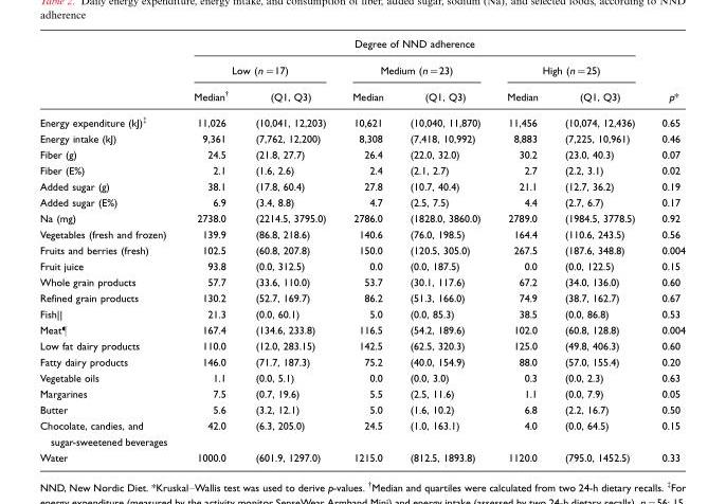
<table><thead><tr><td rowspan="3"></td><td colspan="6">Degree of NND adherence</td><td rowspan="3">p*</td></tr><tr><td colspan="2">Low (n=17)</td><td colspan="2">Medium (n=23)</td><td colspan="2">High (n=25)</td></tr><tr><td>Median†</td><td>(Q1, Q3)</td><td>Median</td><td>(Q1, Q3)</td><td>Median</td><td>(Q1, Q3)</td></tr></thead><tbody><tr><td>Energy expenditure (kJ)‡</td><td>11,026</td><td>(10,041, 12,203)</td><td>10,621</td><td>(10,040, 11,870)</td><td>11,456</td><td>(10,074, 12,436)</td><td>0.65</td></tr><tr><td>Energy intake (kJ)</td><td>9,361</td><td>(7,762, 12,200)</td><td>8,308</td><td>(7,418, 10,992)</td><td>8,883</td><td>(7,225, 10,961)</td><td>0.46</td></tr><tr><td>Fiber (g)</td><td>24.5</td><td>(21.8, 27.7)</td><td>26.4</td><td>(22.0, 32.0)</td><td>30.2</td><td>(23.0, 40.3)</td><td>0.07</td></tr><tr><td>Fiber (E%)</td><td>2.1</td><td>(1.6, 2.6)</td><td>2.4</td><td>(2.1, 2.7)</td><td>2.7</td><td>(2.2, 3.1)</td><td>0.02</td></tr><tr><td>Added sugar (g)</td><td>38.1</td><td>(17.8, 60.4)</td><td>27.8</td><td>(10.7, 40.4)</td><td>21.1</td><td>(12.7, 36.2)</td><td>0.19</td></tr><tr><td>Added sugar (E%)</td><td>6.9</td><td>(3.4, 8.8)</td><td>4.7</td><td>(2.5, 7.5)</td><td>4.4</td><td>(2.7, 6.7)</td><td>0.17</td></tr><tr><td>Na (mg)</td><td>2738.0</td><td>(2214.5, 3795.0)</td><td>2786.0</td><td>(1828.0, 3860.0)</td><td>2789.0</td><td>(1984.5, 3778.5)</td><td>0.92</td></tr><tr><td>Vegetables (fresh and frozen)</td><td>139.9</td><td>(86.8, 218.6)</td><td>140.6</td><td>(76.0, 198.5)</td><td>164.4</td><td>(110.6, 243.5)</td><td>0.56</td></tr><tr><td>Fruits and berries (fresh)</td><td>102.5</td><td>(60.8, 207.8)</td><td>150.0</td><td>(120.5, 305.0)</td><td>267.5</td><td>(187.6, 348.8)</td><td>0.004</td></tr><tr><td>Fruit juice</td><td>93.8</td><td>(0.0, 312.5)</td><td>0.0</td><td>(0.0, 187.5)</td><td>0.0</td><td>(0.0, 122.5)</td><td>0.15</td></tr><tr><td>Whole grain products</td><td>57.7</td><td>(33.6, 110.0)</td><td>53.7</td><td>(30.1, 117.6)</td><td>67.2</td><td>(34.0, 136.0)</td><td>0.60</td></tr><tr><td>Refined grain products</td><td>130.2</td><td>(52.7, 169.7)</td><td>86.2</td><td>(51.3, 166.0)</td><td>74.9</td><td>(38.7, 162.7)</td><td>0.67</td></tr><tr><td>Fish||</td><td>21.3</td><td>(0.0, 60.1)</td><td>5.0</td><td>(0.0, 85.3)</td><td>38.5</td><td>(0.0, 86.8)</td><td>0.53</td></tr><tr><td>Meat’</td><td>167.4</td><td>(134.6, 233.8)</td><td>116.5</td><td>(54.2, 189.6)</td><td>102.0</td><td>(60.8, 128.8)</td><td>0.004</td></tr><tr><td>Low fat dairy products</td><td>110.0</td><td>(12.0, 283.15)</td><td>142.5</td><td>(62.5, 320.3)</td><td>125.0</td><td>(49.8, 406.3)</td><td>0.60</td></tr><tr><td>Fatty dairy products</td><td>146.0</td><td>(71.7, 187.3)</td><td>75.2</td><td>(40.0, 154.9)</td><td>88.0</td><td>(57.0, 155.4)</td><td>0.20</td></tr><tr><td>Vegetable oils</td><td>1.1</td><td>(0.0, 5.1)</td><td>0.0</td><td>(0.0, 3.0)</td><td>0.3</td><td>(0.0, 2.3)</td><td>0.63</td></tr><tr><td>Margarines</td><td>7.5</td><td>(0.7, 19.6)</td><td>5.5</td><td>(2.5, 11.6)</td><td>1.1</td><td>(0.0, 7.9)</td><td>0.05</td></tr><tr><td>Butter</td><td>5.6</td><td>(3.2, 12.1)</td><td>5.0</td><td>(1.6, 10.2)</td><td>6.8</td><td>(2.2, 16.7)</td><td>0.50</td></tr><tr><td>Chocolate, candies, and sugar-sweetened beverages</td><td>42.0</td><td>(6.3, 205.0)</td><td>24.5</td><td>(1.0, 163.1)</td><td>4.0</td><td>(0.0, 64.5)</td><td>0.15</td></tr><tr><td>Water</td><td>1000.0</td><td>(601.9, 1297.0)</td><td>1215.0</td><td>(812.5, 1893.8)</td><td>1120.0</td><td>(795.0, 1452.5)</td><td>0.33</td></tr></tbody></table>